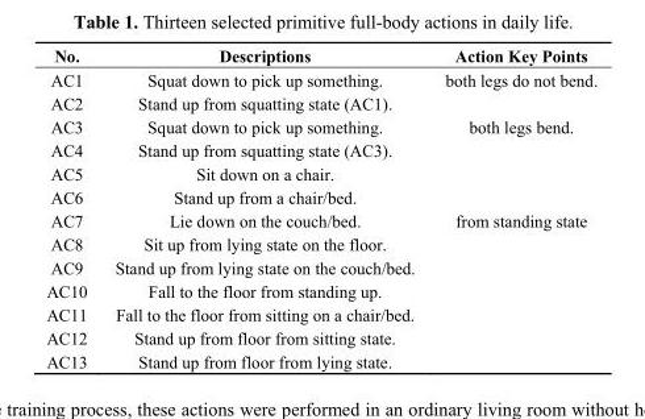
<table><thead><tr><td>No.</td><td>Descriptions</td><td>Action Key Points</td></tr></thead><tbody><tr><td>AC1</td><td>Squat down to pick up something.</td><td>both legs do not bend.</td></tr><tr><td>AC2</td><td>Stand up from squatting state (AC1).</td><td></td></tr><tr><td>AC3</td><td>Squat down to pick up something.</td><td>both legs bend.</td></tr><tr><td>AC4</td><td>Stand up from squatting state (AC3).</td><td></td></tr><tr><td>AC5</td><td>Sit down on a chair.</td><td></td></tr><tr><td>AC6</td><td>Stand up from a chair/bed.</td><td></td></tr><tr><td>AC7</td><td>Lie down on the couch/bed.</td><td>from standing state</td></tr><tr><td>AC8</td><td>Sit up from lying state on the floor.</td><td></td></tr><tr><td>AC9</td><td>Stand up from lying state on the couch/bed.</td><td></td></tr><tr><td>AC10</td><td>Fall to the floor from standing up.</td><td></td></tr><tr><td>AC11</td><td>Fall to the floor from sitting on a chair/bed.</td><td></td></tr><tr><td>AC12</td><td>Stand up from floor from sitting state.</td><td></td></tr><tr><td>AC13</td><td>Stand up from floor from lying state.</td><td></td></tr></tbody></table>